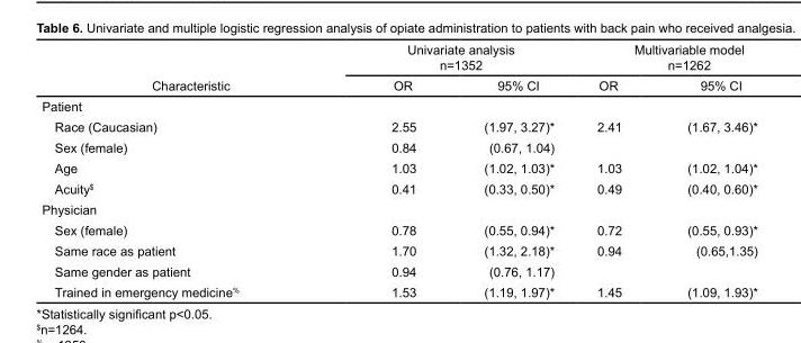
<table><thead><tr><td rowspan="2">Characteristic</td><td colspan="2">Univariate analysis n=1352</td><td colspan="2">Multivariable model n=1262</td></tr><tr><td>OR</td><td>95% CI</td><td>OR</td><td>95% CI</td></tr></thead><tbody><tr><td colspan="5">Patient</td></tr><tr><td>Race (Caucasian)</td><td>2.55</td><td>(1.97, 3.27)*</td><td>2.41</td><td>(1.67, 3.46)*</td></tr><tr><td>Sex (female)</td><td>0.84</td><td>(0.67, 1.04)</td><td></td><td></td></tr><tr><td>Age</td><td>1.03</td><td>(1.02, 1.03)*</td><td>1.03</td><td>(1.02, 1.04)*</td></tr><tr><td>Acuity$</td><td>0.41</td><td>(0.33, 0.50)*</td><td>0.49</td><td>(0.40, 0.60)*</td></tr><tr><td colspan="5">Physician</td></tr><tr><td>Sex (female)</td><td>0.78</td><td>(0.55, 0.94)*</td><td>0.72</td><td>(0.55, 0.93)*</td></tr><tr><td>Same race as patient</td><td>1.70</td><td>(1.32, 2.18)*</td><td>0.94</td><td>(0.65,1.35)</td></tr><tr><td>Same gender as patient</td><td>0.94</td><td>(0.76, 1.17)</td><td></td><td></td></tr><tr><td>Trained in emergency medicine%</td><td>1.53</td><td>(1.19, 1.97)*</td><td>1.45</td><td>(1.09, 1.93)*</td></tr></tbody></table>